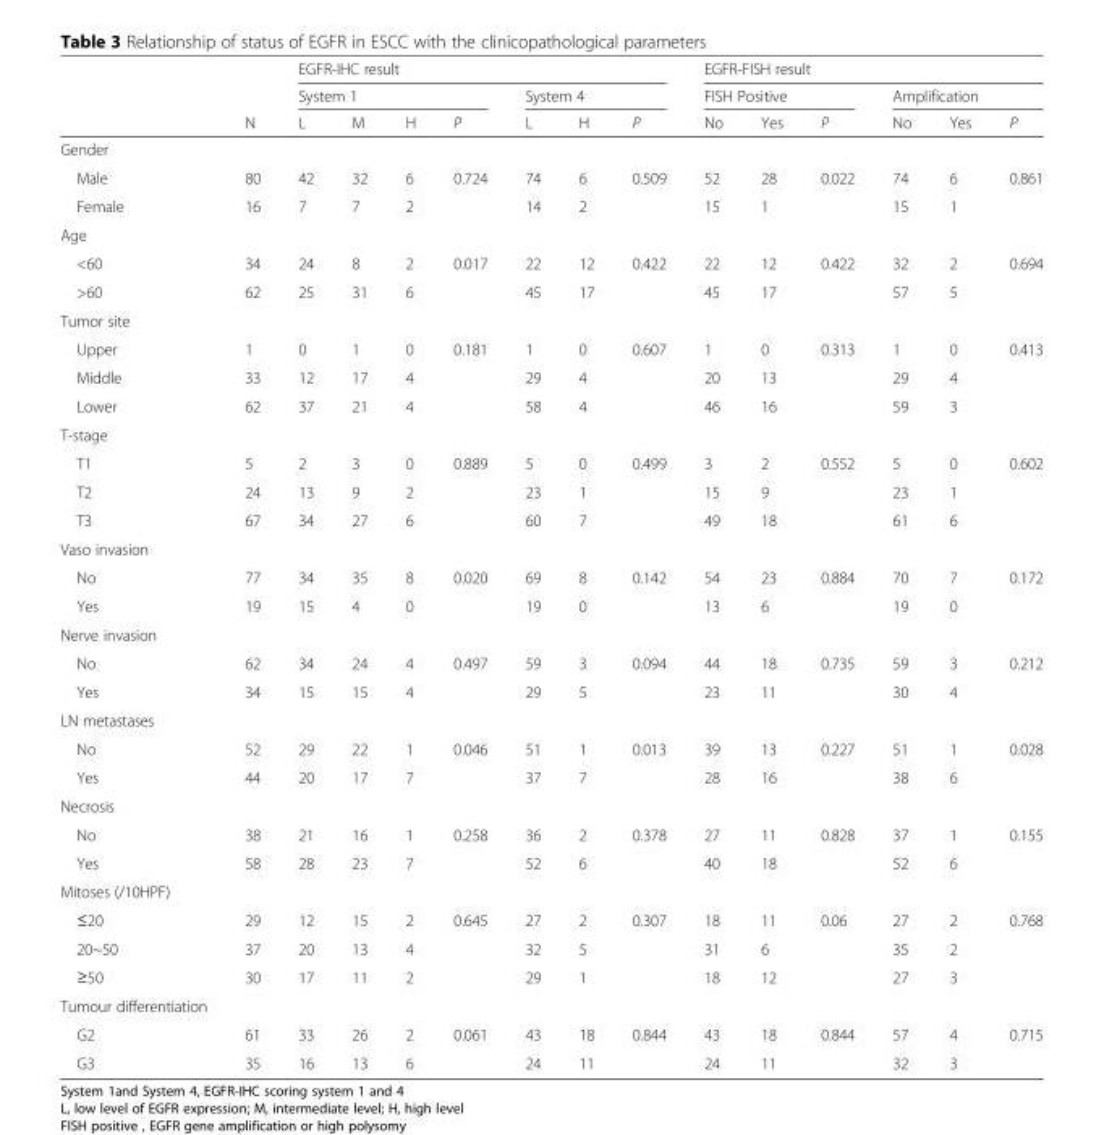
<table><thead><tr><td rowspan="3"></td><td rowspan="3">N</td><td colspan="7">EGFR-IHC result</td><td colspan="6">EGFR-FISH result</td></tr><tr><td colspan="4">System 1</td><td colspan="3">System 4</td><td colspan="3">FISH Positive</td><td colspan="3">Amplification</td></tr><tr><td>L</td><td>M</td><td>H</td><td>P</td><td>L</td><td>H</td><td>P</td><td>No</td><td>Yes</td><td>P</td><td>No</td><td>Yes</td><td>P</td></tr></thead><tbody><tr><td colspan="15">Gender</td></tr><tr><td>Male</td><td>80</td><td>42</td><td>32</td><td>6</td><td>0.724</td><td>74</td><td>6</td><td>0.509</td><td>52</td><td>28</td><td>0.022</td><td>74</td><td>6</td><td>0.861</td></tr><tr><td>Female</td><td>16</td><td>7</td><td>7</td><td>2</td><td></td><td>14</td><td>2</td><td></td><td>15</td><td>1</td><td></td><td>15</td><td>1</td><td></td></tr><tr><td colspan="15">Age</td></tr><tr><td>&lt;60</td><td>34</td><td>24</td><td>8</td><td>2</td><td>0.017</td><td>22</td><td>12</td><td>0.422</td><td>22</td><td>12</td><td>0.422</td><td>32</td><td>2</td><td>0.694</td></tr><tr><td>&gt;60</td><td>62</td><td>25</td><td>31</td><td>6</td><td></td><td>45</td><td>17</td><td></td><td>45</td><td>17</td><td></td><td>57</td><td>5</td><td></td></tr><tr><td colspan="15">Tumor site</td></tr><tr><td>Upper</td><td>1</td><td>0</td><td>1</td><td>0</td><td>0.181</td><td>1</td><td>0</td><td>0.607</td><td>1</td><td>0</td><td>0.313</td><td>1</td><td>0</td><td>0.413</td></tr><tr><td>Middle</td><td>33</td><td>12</td><td>17</td><td>4</td><td></td><td>29</td><td>4</td><td></td><td>20</td><td>13</td><td></td><td>29</td><td>4</td><td></td></tr><tr><td>Lower</td><td>62</td><td>37</td><td>21</td><td>4</td><td></td><td>58</td><td>4</td><td></td><td>46</td><td>16</td><td></td><td>59</td><td>3</td><td></td></tr><tr><td colspan="15">T-stage</td></tr><tr><td>T1</td><td>5</td><td>2</td><td>3</td><td>0</td><td>0.889</td><td>5</td><td>0</td><td>0.499</td><td>3</td><td>2</td><td>0.552</td><td>5</td><td>0</td><td>0.602</td></tr><tr><td>T2</td><td>24</td><td>13</td><td>9</td><td>2</td><td></td><td>23</td><td>1</td><td></td><td>15</td><td>9</td><td></td><td>23</td><td>1</td><td></td></tr><tr><td>T3</td><td>67</td><td>34</td><td>27</td><td>6</td><td></td><td>60</td><td>7</td><td></td><td>49</td><td>18</td><td></td><td>61</td><td>6</td><td></td></tr><tr><td colspan="15">Vaso invasion</td></tr><tr><td>No</td><td>77</td><td>34</td><td>35</td><td>8</td><td>0.020</td><td>69</td><td>8</td><td>0.142</td><td>54</td><td>23</td><td>0.884</td><td>70</td><td>7</td><td>0.172</td></tr><tr><td>Yes</td><td>19</td><td>15</td><td>4</td><td>0</td><td></td><td>19</td><td>0</td><td></td><td>13</td><td>6</td><td></td><td>19</td><td>0</td><td></td></tr><tr><td colspan="15">Nerve invasion</td></tr><tr><td>No</td><td>62</td><td>34</td><td>24</td><td>4</td><td>0.497</td><td>59</td><td>3</td><td>0.094</td><td>44</td><td>18</td><td>0.735</td><td>59</td><td>3</td><td>0.212</td></tr><tr><td>Yes</td><td>34</td><td>15</td><td>15</td><td>4</td><td></td><td>29</td><td>5</td><td></td><td>23</td><td>11</td><td></td><td>30</td><td>4</td><td></td></tr><tr><td colspan="15">LN metastases</td></tr><tr><td>No</td><td>52</td><td>29</td><td>22</td><td>1</td><td>0.046</td><td>51</td><td>1</td><td>0.013</td><td>39</td><td>13</td><td>0.227</td><td>51</td><td>1</td><td>0.028</td></tr><tr><td>Yes</td><td>44</td><td>20</td><td>17</td><td>7</td><td></td><td>37</td><td>7</td><td></td><td>28</td><td>16</td><td></td><td>38</td><td>6</td><td></td></tr><tr><td colspan="15">Necrosis</td></tr><tr><td>No</td><td>38</td><td>21</td><td>16</td><td>1</td><td>0.258</td><td>36</td><td>2</td><td>0.378</td><td>27</td><td>11</td><td>0.828</td><td>37</td><td>1</td><td>0.155</td></tr><tr><td>Yes</td><td>58</td><td>28</td><td>23</td><td>7</td><td></td><td>52</td><td>6</td><td></td><td>40</td><td>18</td><td></td><td>52</td><td>6</td><td></td></tr><tr><td colspan="15">Mitoses (/10HPF)</td></tr><tr><td>≤20</td><td>29</td><td>12</td><td>15</td><td>2</td><td>0.645</td><td>27</td><td>2</td><td>0.307</td><td>18</td><td>11</td><td>0.06</td><td>27</td><td>2</td><td>0.768</td></tr><tr><td>20~50</td><td>37</td><td>20</td><td>13</td><td>4</td><td></td><td>32</td><td>5</td><td></td><td>31</td><td>6</td><td></td><td>35</td><td>2</td><td></td></tr><tr><td>≥50</td><td>30</td><td>17</td><td>11</td><td>2</td><td></td><td>29</td><td>1</td><td></td><td>18</td><td>12</td><td></td><td>27</td><td>3</td><td></td></tr><tr><td colspan="15">Tumour differentiation</td></tr><tr><td>G2</td><td>61</td><td>33</td><td>26</td><td>2</td><td>0.061</td><td>43</td><td>18</td><td>0.844</td><td>43</td><td>18</td><td>0.844</td><td>57</td><td>4</td><td>0.715</td></tr><tr><td>G3</td><td>35</td><td>16</td><td>13</td><td>6</td><td></td><td>24</td><td>11</td><td></td><td>24</td><td>11</td><td></td><td>32</td><td>3</td><td></td></tr></tbody></table>